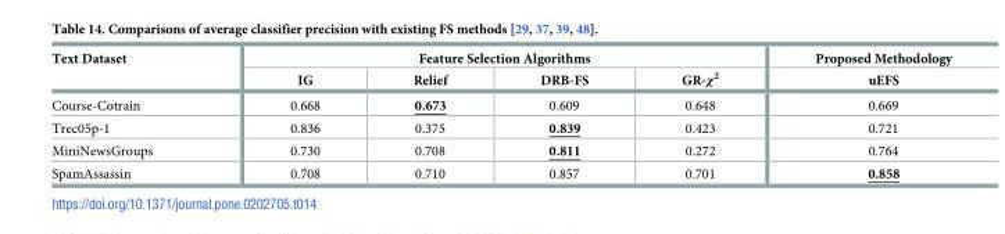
<table><thead><tr><td rowspan="2">Text Dataset</td><td colspan="4">Feature Selection Algorithms</td><td rowspan="2">Proposed Methodology uEFS</td></tr><tr><td>IG</td><td>Relief</td><td>DRB-FS</td><td>GR-χ<sup>2</sup></td></tr></thead><tbody><tr><td>Course-Cotrain</td><td>0.668</td><td>0.673</td><td>0.609</td><td>0.648</td><td>0.669</td></tr><tr><td>Trec05p-1</td><td>0.836</td><td>0.375</td><td>0.839</td><td>0.423</td><td>0.721</td></tr><tr><td>MiniNewsGroups</td><td>0.730</td><td>0.708</td><td>0.811</td><td>0.272</td><td>0.764</td></tr><tr><td>SpamAssassin</td><td>0.708</td><td>0.710</td><td>0.857</td><td>0.701</td><td>0.858</td></tr></tbody></table>